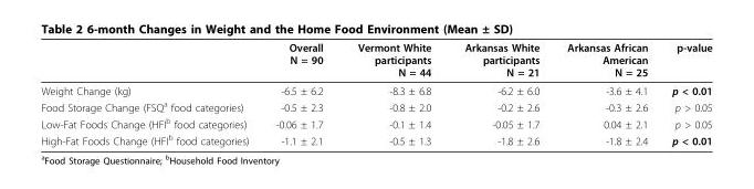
<table><thead><tr><td></td><td>Overall N = 90</td><td>Vermont White participants N = 44</td><td>Arkansas White participants N = 21</td><td>Arkansas African American N = 25</td><td>p-value</td></tr></thead><tbody><tr><td>Weight Change (kg)</td><td>-6.5 ± 6.2</td><td>-8.3 ± 6.8</td><td>-6.2 ± 6.0</td><td>-3.6 ± 4.1</td><td>p &lt; 0.01</td></tr><tr><td>Food Storage Change (FSQ<sup>a</sup> food categories)</td><td>-0.5 ± 2.3</td><td>-0.8 ± 2.0</td><td>-0.2 ± 2.6</td><td>-0.3 ± 2.6</td><td>p &gt; 0.05</td></tr><tr><td>Low-Fat Foods Change (HFI<sup>b</sup> food categories)</td><td>-0.06 ± 1.7</td><td>-0.1 ± 1.4</td><td>-0.05 ± 1.7</td><td>0.04 ± 2.1</td><td>p &gt; 0.05</td></tr><tr><td>High-Fat Foods Change (HFI<sup>b</sup> food categories)</td><td>-1.1 ± 2.1</td><td>-0.5 ± 1.3</td><td>-1.8 ± 2.6</td><td>-1.8 ± 2.4</td><td>p &lt; 0.01</td></tr></tbody></table>